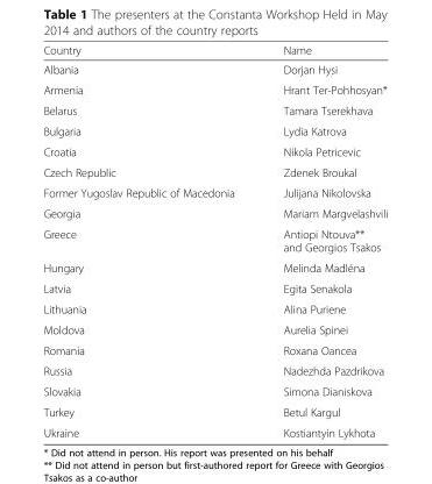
<table><thead><tr><td>Country</td><td>Name</td></tr></thead><tbody><tr><td>Albania</td><td>Dorjan Hysi</td></tr><tr><td>Armenia</td><td>Hrant Ter-Pohhosyan*</td></tr><tr><td>Belarus</td><td>Tamara Tserekhava</td></tr><tr><td>Bulgaria</td><td>Lydia Katrova</td></tr><tr><td>Croatia</td><td>Nikola Petricevic</td></tr><tr><td>Czech Republic</td><td>Zdenek Broukal</td></tr><tr><td>Former Yugoslav Republic of Macedonia</td><td>Julijana Nikolovska</td></tr><tr><td>Georgia</td><td>Mariam Margvelashvili</td></tr><tr><td>Greece</td><td>Antiopi Ntouva** and Georgios Tsakos</td></tr><tr><td>Hungary</td><td>Melinda Madléna</td></tr><tr><td>Latvia</td><td>Egita Senakola</td></tr><tr><td>Lithuania</td><td>Alina Puriene</td></tr><tr><td>Moldova</td><td>Aurelia Spinei</td></tr><tr><td>Romania</td><td>Roxana Oancea</td></tr><tr><td>Russia</td><td>Nadezhda Pazdrikova</td></tr><tr><td>Slovakia</td><td>Simona Dianiskova</td></tr><tr><td>Turkey</td><td>Betul Kargul</td></tr><tr><td>Ukraine</td><td>Kostiantyin Lykhota</td></tr></tbody></table>